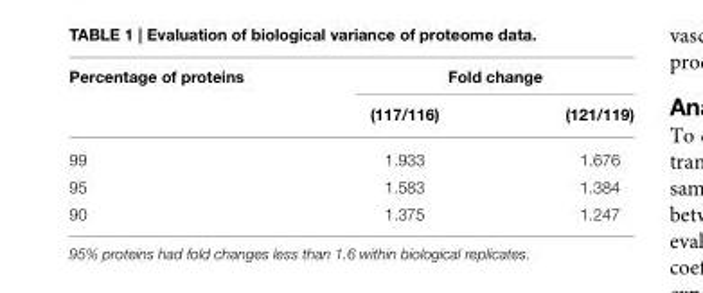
<table><thead><tr><td rowspan="2">Percentage of proteins</td><td colspan="2">Fold change</td></tr><tr><td>(117/116)</td><td>(121/119)</td></tr></thead><tbody><tr><td>99</td><td>1.933</td><td>1.676</td></tr><tr><td>95</td><td>1.583</td><td>1.384</td></tr><tr><td>90</td><td>1.375</td><td>1.247</td></tr></tbody></table>